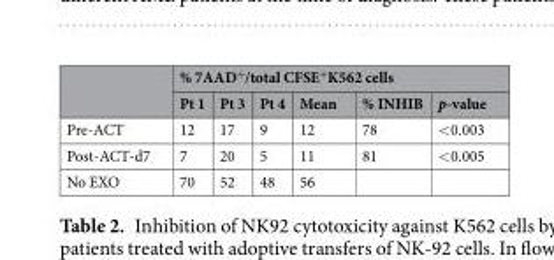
<table><thead><tr><td rowspan="2"></td><td colspan="6">% 7AAD<sup>+</sup>/total CFSE<sup>+</sup>K562 cells</td></tr><tr><td>Pt 1</td><td>Pt 3</td><td>Pt 4</td><td>Mean</td><td>% INHIB</td><td>p-value</td></tr></thead><tbody><tr><td>Pre-ACT</td><td>12</td><td>17</td><td>9</td><td>12</td><td>78</td><td>&lt;0.003</td></tr><tr><td>Post-ACT-d7</td><td>7</td><td>20</td><td>5</td><td>11</td><td>81</td><td>&lt;0.005</td></tr><tr><td>No EXO</td><td>70</td><td>52</td><td>48</td><td>56</td><td></td><td></td></tr></tbody></table>